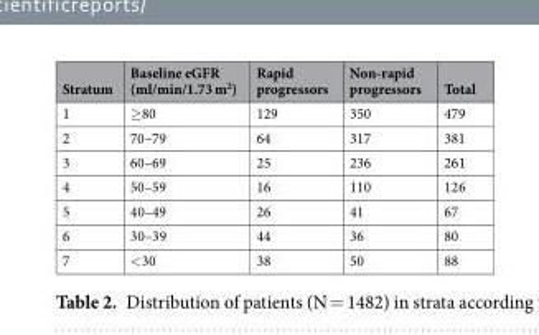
<table><thead><tr><td>Stratum</td><td>Baseline eGFR (ml/min/1.73 m<sup>2</sup>)</td><td>Rapid progressors</td><td>Non-rapid progressors</td><td>Total</td></tr></thead><tbody><tr><td>1</td><td>≥80</td><td>129</td><td>350</td><td>479</td></tr><tr><td>2</td><td>70–79</td><td>64</td><td>317</td><td>381</td></tr><tr><td>3</td><td>60–69</td><td>25</td><td>236</td><td>261</td></tr><tr><td>4</td><td>50–59</td><td>16</td><td>110</td><td>126</td></tr><tr><td>5</td><td>40–49</td><td>26</td><td>41</td><td>67</td></tr><tr><td>6</td><td>30–39</td><td>44</td><td>36</td><td>80</td></tr><tr><td>7</td><td>&lt;30</td><td>38</td><td>50</td><td>88</td></tr></tbody></table>